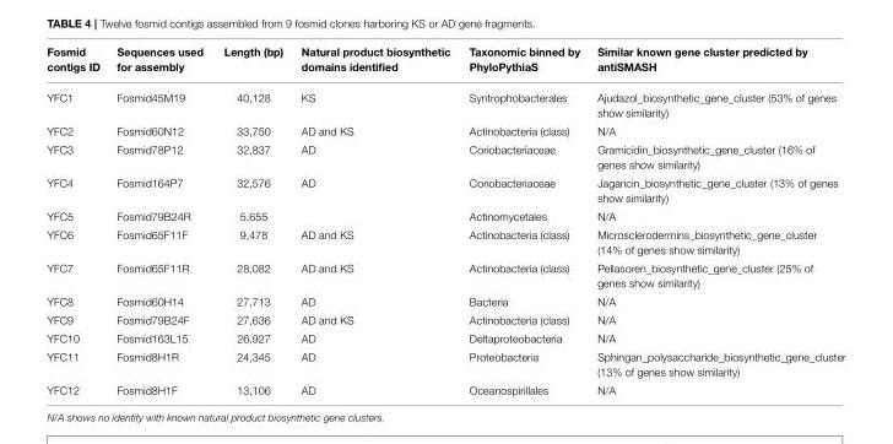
<table><thead><tr><td>Fosmid contigs ID</td><td>Sequences used for assembly</td><td>Length (bp)</td><td>Natural product biosynthetic domains identified</td><td>Taxonomic binned by PhyloPythiaS</td><td>Similar known gene cluster predicted by antiSMASH</td></tr></thead><tbody><tr><td>YFC1</td><td>Fosmid45M19</td><td>40,128</td><td>KS</td><td>Syntrophobacterales</td><td>Ajudazol_biosynthetic_gene_cluster (53% of genes show similarity)</td></tr><tr><td>YFC2</td><td>Fosmid60N12</td><td>33,750</td><td>AD and KS</td><td>Actinobacteria (class)</td><td>N/A</td></tr><tr><td>YFC3</td><td>Fosmid78P12</td><td>32,837</td><td>AD</td><td>Coriobacteriaceae</td><td>Gramicidin_biosynthetic_gene_cluster (16% of genes show similarity)</td></tr><tr><td>YFC4</td><td>Fosmid164P7</td><td>32,576</td><td>AD</td><td>Coriobacteriaceae</td><td>Jagaricin_biosynthetic_gene_cluster (13% of genes show similarity)</td></tr><tr><td>YFC5</td><td>Fosmid79B24R</td><td>5,655</td><td></td><td>Actinomycetales</td><td>N/A</td></tr><tr><td>YFC6</td><td>Fosmid65F11F</td><td>9,478</td><td>AD and KS</td><td>Actinobacteria (class)</td><td>Microsclerodermins_biosynthetic_gene_cluster (14% of genes show similarity)</td></tr><tr><td>YFC7</td><td>Fosmid65F11R</td><td>28,082</td><td>AD and KS</td><td>Actinobacteria (class)</td><td>Pellasoren_biosynthetic_gene_cluster (25% of genes show similarity)</td></tr><tr><td>YFC8</td><td>Fosmid60H14</td><td>27,713</td><td>AD</td><td>Bacteria</td><td>N/A</td></tr><tr><td>YFC9</td><td>Fosmid79B24F</td><td>27,636</td><td>AD and KS</td><td>Actinobacteria (class)</td><td>N/A</td></tr><tr><td>YFC10</td><td>Fosmid163L15</td><td>26,927</td><td>AD</td><td>Deltaproteobacteria</td><td>N/A</td></tr><tr><td>YFC11</td><td>Fosmid8H1R</td><td>24,345</td><td>AD</td><td>Proteobacteria</td><td>Sphingan_polysaccharide_biosynthetic_gene_cluster (13% of genes show similarity)</td></tr><tr><td>YFC12</td><td>Fosmid8H1F</td><td>13,106</td><td>AD</td><td>Oceanospirillales</td><td>N/A</td></tr></tbody></table>